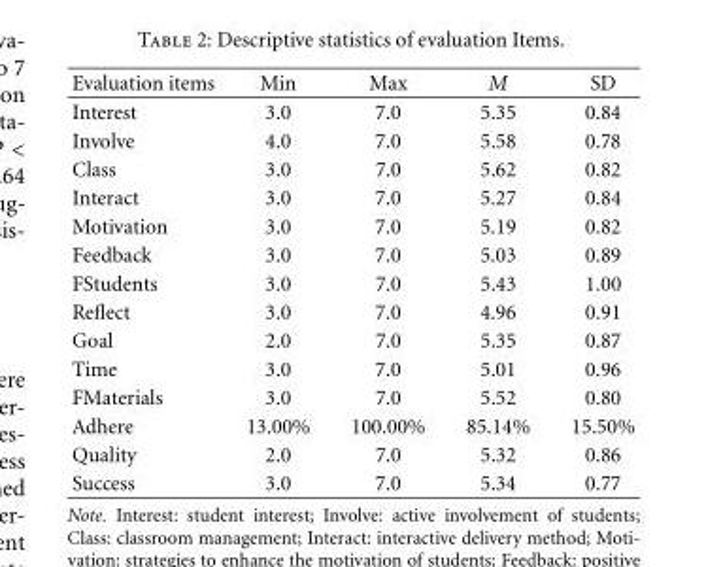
<table><thead><tr><td>Evaluation items</td><td>Min</td><td>Max</td><td>M</td><td>SD</td></tr></thead><tbody><tr><td>Interest</td><td>3.0</td><td>7.0</td><td>5.35</td><td>0.84</td></tr><tr><td>Involve</td><td>4.0</td><td>7.0</td><td>5.58</td><td>0.78</td></tr><tr><td>Class</td><td>3.0</td><td>7.0</td><td>5.62</td><td>0.82</td></tr><tr><td>Interact</td><td>3.0</td><td>7.0</td><td>5.27</td><td>0.84</td></tr><tr><td>Motivation</td><td>3.0</td><td>7.0</td><td>5.19</td><td>0.82</td></tr><tr><td>Feedback</td><td>3.0</td><td>7.0</td><td>5.03</td><td>0.89</td></tr><tr><td>FStudents</td><td>3.0</td><td>7.0</td><td>5.43</td><td>1.00</td></tr><tr><td>Reflect</td><td>3.0</td><td>7.0</td><td>4.96</td><td>0.91</td></tr><tr><td>Goal</td><td>2.0</td><td>7.0</td><td>5.35</td><td>0.87</td></tr><tr><td>Time</td><td>3.0</td><td>7.0</td><td>5.01</td><td>0.96</td></tr><tr><td>FMaterials</td><td>3.0</td><td>7.0</td><td>5.52</td><td>0.80</td></tr><tr><td>Adhere</td><td>13.00%</td><td>100.00%</td><td>85.14%</td><td>15.50%</td></tr><tr><td>Quality</td><td>2.0</td><td>7.0</td><td>5.32</td><td>0.86</td></tr><tr><td>Success</td><td>3.0</td><td>7.0</td><td>5.34</td><td>0.77</td></tr></tbody></table>